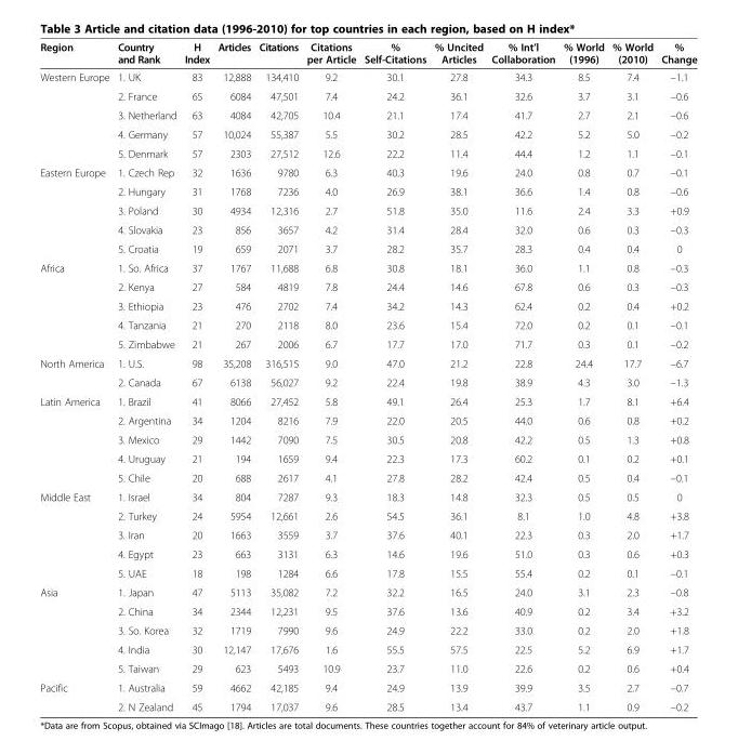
<table><thead><tr><td>Region</td><td>Country and Rank</td><td>H Index</td><td>Articles</td><td>Citations</td><td>Citations per Article</td><td>% Self-Citations</td><td>% Uncited Articles</td><td>% Int’l Collaboration</td><td>% World (1996)</td><td>% World (2010)</td><td>% Change</td></tr></thead><tbody><tr><td rowspan="5">Western Europe</td><td>1. UK</td><td>83</td><td>12,888</td><td>134,410</td><td>9.2</td><td>30.1</td><td>27.8</td><td>34.3</td><td>8.5</td><td>7.4</td><td>–1.1</td></tr><tr><td>2. France</td><td>65</td><td>6084</td><td>47,501</td><td>7.4</td><td>24.2</td><td>36.1</td><td>32.6</td><td>3.7</td><td>3.1</td><td>–0.6</td></tr><tr><td>3. Netherland</td><td>63</td><td>4084</td><td>42,705</td><td>10.4</td><td>21.1</td><td>17.4</td><td>41.7</td><td>2.7</td><td>2.1</td><td>–0.6</td></tr><tr><td>4. Germany</td><td>57</td><td>10,024</td><td>55,387</td><td>5.5</td><td>30.2</td><td>28.5</td><td>42.2</td><td>5.2</td><td>5.0</td><td>–0.2</td></tr><tr><td>5. Denmark</td><td>57</td><td>2303</td><td>27,512</td><td>12.6</td><td>22.2</td><td>11.4</td><td>44.4</td><td>1.2</td><td>1.1</td><td>–0.1</td></tr><tr><td rowspan="5">Eastern Europe</td><td>1. Czech Rep</td><td>32</td><td>1636</td><td>9780</td><td>6.3</td><td>40.3</td><td>19.6</td><td>24.0</td><td>0.8</td><td>0.7</td><td>–0.1</td></tr><tr><td>2. Hungary</td><td>31</td><td>1768</td><td>7236</td><td>4.0</td><td>26.9</td><td>38.1</td><td>36.6</td><td>1.4</td><td>0.8</td><td>–0.6</td></tr><tr><td>3. Poland</td><td>30</td><td>4934</td><td>12,316</td><td>2.7</td><td>51.8</td><td>35.0</td><td>11.6</td><td>2.4</td><td>3.3</td><td>+0.9</td></tr><tr><td>4. Slovakia</td><td>23</td><td>856</td><td>3657</td><td>4.2</td><td>31.4</td><td>28.4</td><td>32.0</td><td>0.6</td><td>0.3</td><td>–0.3</td></tr><tr><td>5. Croatia</td><td>19</td><td>659</td><td>2071</td><td>3.7</td><td>28.2</td><td>35.7</td><td>28.3</td><td>0.4</td><td>0.4</td><td>0</td></tr><tr><td rowspan="5">Africa</td><td>1. So. Africa</td><td>37</td><td>1767</td><td>11,688</td><td>6.8</td><td>30.8</td><td>18.1</td><td>36.0</td><td>1.1</td><td>0.8</td><td>–0.3</td></tr><tr><td>2. Kenya</td><td>27</td><td>584</td><td>4819</td><td>7.8</td><td>24.4</td><td>14.6</td><td>67.8</td><td>0.6</td><td>0.3</td><td>–0.3</td></tr><tr><td>3. Ethiopia</td><td>23</td><td>476</td><td>2702</td><td>7.4</td><td>34.2</td><td>14.3</td><td>62.4</td><td>0.2</td><td>0.4</td><td>+0.2</td></tr><tr><td>4. Tanzania</td><td>21</td><td>270</td><td>2118</td><td>8.0</td><td>23.6</td><td>15.4</td><td>72.0</td><td>0.2</td><td>0.1</td><td>–0.1</td></tr><tr><td>5. Zimbabwe</td><td>21</td><td>267</td><td>2006</td><td>6.7</td><td>17.7</td><td>17.0</td><td>71.7</td><td>0.3</td><td>0.1</td><td>–0.2</td></tr><tr><td rowspan="2">North America</td><td>1. U.S.</td><td>98</td><td>35,208</td><td>316,515</td><td>9.0</td><td>47.0</td><td>21.2</td><td>22.8</td><td>24.4</td><td>17.7</td><td>–6.7</td></tr><tr><td>2. Canada</td><td>67</td><td>6138</td><td>56,027</td><td>9.2</td><td>22.4</td><td>19.8</td><td>38.9</td><td>4.3</td><td>3.0</td><td>–1.3</td></tr><tr><td rowspan="5">Latin America</td><td>1. Brazil</td><td>41</td><td>8066</td><td>27,452</td><td>5.8</td><td>49.1</td><td>26.4</td><td>25.3</td><td>1.7</td><td>8.1</td><td>+6.4</td></tr><tr><td>2. Argentina</td><td>34</td><td>1204</td><td>8216</td><td>7.9</td><td>22.0</td><td>20.5</td><td>44.0</td><td>0.6</td><td>0.8</td><td>+0.2</td></tr><tr><td>3. Mexico</td><td>29</td><td>1442</td><td>7090</td><td>7.5</td><td>30.5</td><td>20.8</td><td>42.2</td><td>0.5</td><td>1.3</td><td>+0.8</td></tr><tr><td>4. Uruguay</td><td>21</td><td>194</td><td>1659</td><td>9.4</td><td>22.3</td><td>17.3</td><td>60.2</td><td>0.1</td><td>0.2</td><td>+0.1</td></tr><tr><td>5. Chile</td><td>20</td><td>688</td><td>2617</td><td>4.1</td><td>27.8</td><td>28.2</td><td>42.4</td><td>0.5</td><td>0.4</td><td>–0.1</td></tr><tr><td rowspan="5">Middle East</td><td>1. Israel</td><td>34</td><td>804</td><td>7287</td><td>9.3</td><td>18.3</td><td>14.8</td><td>32.3</td><td>0.5</td><td>0.5</td><td>0</td></tr><tr><td>2. Turkey</td><td>24</td><td>5954</td><td>12,661</td><td>2.6</td><td>54.5</td><td>36.1</td><td>8.1</td><td>1.0</td><td>4.8</td><td>+3.8</td></tr><tr><td>3. Iran</td><td>20</td><td>1663</td><td>3559</td><td>3.7</td><td>37.6</td><td>40.1</td><td>22.3</td><td>0.3</td><td>2.0</td><td>+1.7</td></tr><tr><td>4. Egypt</td><td>23</td><td>663</td><td>3131</td><td>6.3</td><td>14.6</td><td>19.6</td><td>51.0</td><td>0.3</td><td>0.6</td><td>+0.3</td></tr><tr><td>5. UAE</td><td>18</td><td>198</td><td>1284</td><td>6.6</td><td>17.8</td><td>15.5</td><td>55.4</td><td>0.2</td><td>0.1</td><td>–0.1</td></tr><tr><td rowspan="5">Asia</td><td>1. Japan</td><td>47</td><td>5113</td><td>35,082</td><td>7.2</td><td>32.2</td><td>16.5</td><td>24.0</td><td>3.1</td><td>2.3</td><td>–0.8</td></tr><tr><td>2. China</td><td>34</td><td>2344</td><td>12,231</td><td>9.5</td><td>37.6</td><td>13.6</td><td>40.9</td><td>0.2</td><td>3.4</td><td>+3.2</td></tr><tr><td>3. So. Korea</td><td>32</td><td>1719</td><td>7990</td><td>9.6</td><td>24.9</td><td>22.2</td><td>33.0</td><td>0.2</td><td>2.0</td><td>+1.8</td></tr><tr><td>4. India</td><td>30</td><td>12,147</td><td>17,676</td><td>1.6</td><td>55.5</td><td>57.5</td><td>22.5</td><td>5.2</td><td>6.9</td><td>+1.7</td></tr><tr><td>5. Taiwan</td><td>29</td><td>623</td><td>5493</td><td>10.9</td><td>23.7</td><td>11.0</td><td>22.6</td><td>0.2</td><td>0.6</td><td>+0.4</td></tr><tr><td rowspan="2">Pacific</td><td>1. Australia</td><td>59</td><td>4662</td><td>42,185</td><td>9.4</td><td>24.9</td><td>13.9</td><td>39.9</td><td>3.5</td><td>2.7</td><td>–0.7</td></tr><tr><td>2. N Zealand</td><td>45</td><td>1794</td><td>17,037</td><td>9.6</td><td>28.5</td><td>13.4</td><td>43.7</td><td>1.1</td><td>0.9</td><td>–0.2</td></tr></tbody></table>